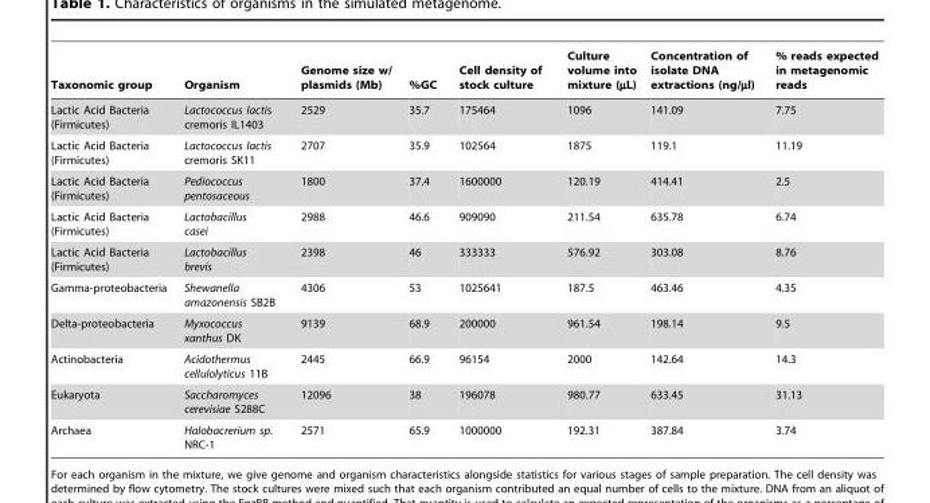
<table><thead><tr><td>Taxonomic group</td><td>Organism</td><td>Genome size w/ plasmids (Mb)</td><td>%GC</td><td>Cell density of stock culture</td><td>Culture volume into mixture (µL)</td><td>Concentration of isolate DNA extractions (ng/µl)</td><td>% reads expected in metagenomic reads</td></tr></thead><tbody><tr><td>Lactic Acid Bacteria (Firmicutes)</td><td>Lactococcus lactis cremoris IL1403</td><td>2529</td><td>35.7</td><td>175464</td><td>1096</td><td>141.09</td><td>7.75</td></tr><tr><td>Lactic Acid Bacteria (Firmicutes)</td><td>Lactococcus lactis cremoris SK11</td><td>2707</td><td>35.9</td><td>102564</td><td>1875</td><td>119.1</td><td>11.19</td></tr><tr><td>Lactic Acid Bacteria (Firmicutes)</td><td>Pediococcus pentosaceous</td><td>1800</td><td>37.4</td><td>1600000</td><td>120.19</td><td>414.41</td><td>2.5</td></tr><tr><td>Lactic Acid Bacteria (Firmicutes)</td><td>Lactobacillus casei</td><td>2988</td><td>46.6</td><td>909090</td><td>211.54</td><td>635.78</td><td>6.74</td></tr><tr><td>Lactic Acid Bacteria (Firmicutes)</td><td>Lactobacillus brevis</td><td>2398</td><td>46</td><td>333333</td><td>576.92</td><td>303.08</td><td>8.76</td></tr><tr><td>Gamma-proteobacteria</td><td>Shewanella amazonensis SB2B</td><td>4306</td><td>53</td><td>1025641</td><td>187.5</td><td>463.46</td><td>4.35</td></tr><tr><td>Delta-proteobacteria</td><td>Myxococcus xanthus DK</td><td>9139</td><td>68.9</td><td>200000</td><td>961.54</td><td>198.14</td><td>9.5</td></tr><tr><td>Actinobacteria</td><td>Acidothermus cellulolyticus 11B</td><td>2445</td><td>66.9</td><td>96154</td><td>2000</td><td>142.64</td><td>14.3</td></tr><tr><td>Eukaryota</td><td>Saccharomyces cerevisiae S288C</td><td>12096</td><td>38</td><td>196078</td><td>980.77</td><td>633.45</td><td>31.13</td></tr><tr><td>Archaea</td><td>Halobacrerium sp. NRC-1</td><td>2571</td><td>65.9</td><td>1000000</td><td>192.31</td><td>387.84</td><td>3.74</td></tr></tbody></table>